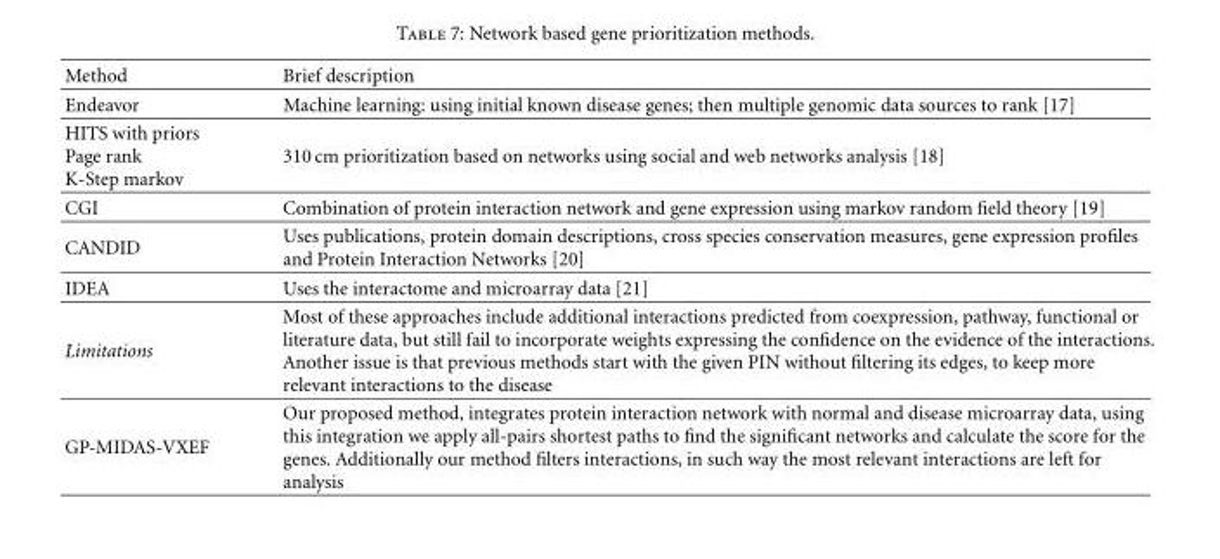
<table><thead><tr><td>Method</td><td>Brief description</td></tr></thead><tbody><tr><td>Endeavor</td><td>Machine learning: using initial known disease genes; then multiple genomic data sources to rank [17]</td></tr><tr><td>HITS with priors Page rank K-Step markov</td><td>310 cm prioritization based on networks using social and web networks analysis [18]</td></tr><tr><td>CGI</td><td>Combination of protein interaction network and gene expression using markov random field theory [19]</td></tr><tr><td>CANDID</td><td>Uses publications, protein domain descriptions, cross species conservation measures, gene expression profiles and Protein Interaction Networks [20]</td></tr><tr><td>IDEA</td><td>Uses the interactome and microarray data [21]</td></tr><tr><td>Limitations</td><td>Most of these approaches include additional interactions predicted from coexpression, pathway, functional or literature data, but still fail to incorporate weights expressing the confidence on the evidence of the interactions. Another issue is that previous methods start with the given PIN without filtering its edges, to keep more relevant interactions to the disease</td></tr><tr><td>GP-MIDAS-VXEF</td><td>Our proposed method, integrates protein interaction network with normal and disease microarray data, using this integration we apply all-pairs shortest paths to find the significant networks and calculate the score for the genes. Additionally our method filters interactions, in such way the most relevant interactions are left for analysis</td></tr></tbody></table>